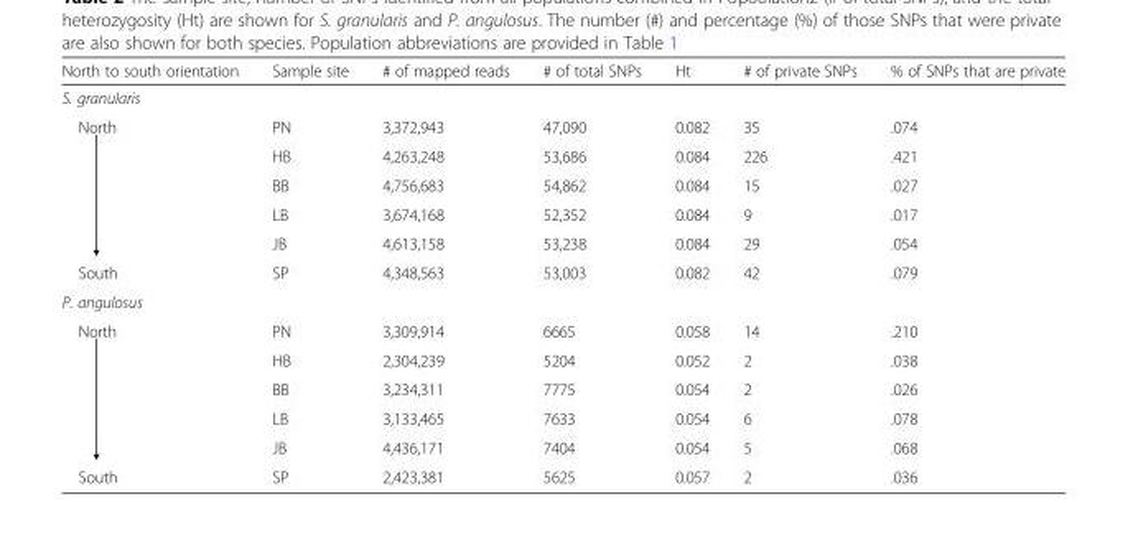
<table><thead><tr><td>North to south orientation</td><td>Sample site</td><td># of mapped reads</td><td># of total SNPs</td><td>Ht</td><td># of private SNPs</td><td>% of SNPs that are private</td></tr></thead><tbody><tr><td colspan="7">S. granularis</td></tr><tr><td rowspan="5">North</td><td>PN</td><td>3,372,943</td><td>47,090</td><td>0.082</td><td>35</td><td>.074</td></tr><tr><td>HB</td><td>4,263,248</td><td>53,686</td><td>0.084</td><td>226</td><td>.421</td></tr><tr><td>BB</td><td>4,756,683</td><td>54,862</td><td>0.084</td><td>15</td><td>.027</td></tr><tr><td>LB</td><td>3,674,168</td><td>52,352</td><td>0.084</td><td>9</td><td>.017</td></tr><tr><td>JB</td><td>4,613,158</td><td>53,238</td><td>0.084</td><td>29</td><td>.054</td></tr><tr><td>South</td><td>SP</td><td>4,348,563</td><td>53,003</td><td>0.082</td><td>42</td><td>.079</td></tr><tr><td colspan="7">P. angulosus</td></tr><tr><td rowspan="5">North</td><td>PN</td><td>3,309,914</td><td>6665</td><td>0.058</td><td>14</td><td>.210</td></tr><tr><td>HB</td><td>2,304,239</td><td>5204</td><td>0.052</td><td>2</td><td>.038</td></tr><tr><td>BB</td><td>3,234,311</td><td>7775</td><td>0.054</td><td>2</td><td>.026</td></tr><tr><td>LB</td><td>3,133,465</td><td>7633</td><td>0.054</td><td>6</td><td>.078</td></tr><tr><td>JB</td><td>4,436,171</td><td>7404</td><td>0.054</td><td>5</td><td>.068</td></tr><tr><td>South</td><td>SP</td><td>2,423,381</td><td>5625</td><td>0.057</td><td>2</td><td>.036</td></tr></tbody></table>